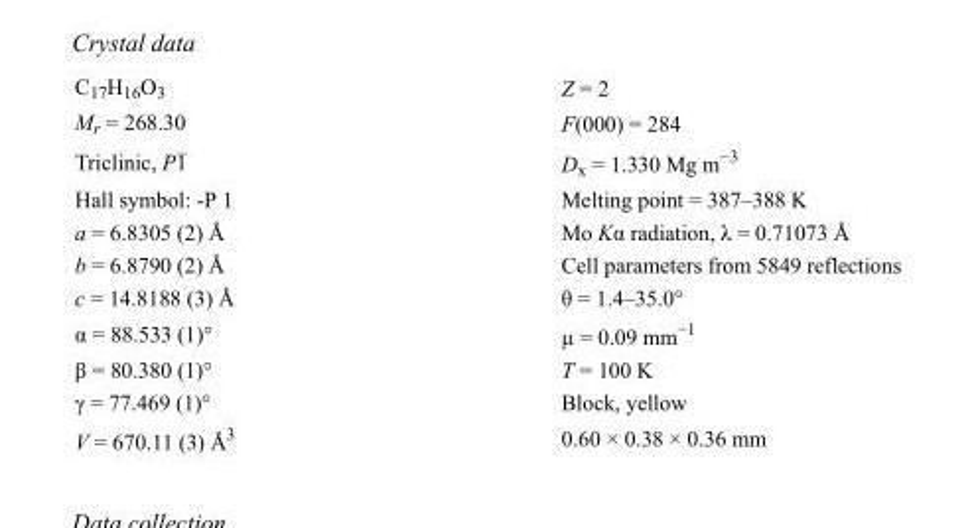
<table><tbody><tr><td>C<sub>17</sub>H<sub>16</sub>O<sub>3</sub></td><td>Z = 2</td></tr><tr><td>M<sub>r</sub> = 268.30</td><td>F(000) = 284</td></tr><tr><td>Triclinic, P1</td><td>D<sub>x</sub> = 1.330 Mg m<sup>−3</sup></td></tr><tr><td>Hall symbol: -P 1</td><td>Melting point = 387–388 K</td></tr><tr><td>a = 6.8305 (2) Å</td><td>Mo Kα radiation, λ = 0.71073 Å</td></tr><tr><td>b = 6.8790 (2) Å</td><td>Cell parameters from 5849 reflections</td></tr><tr><td>c = 14.8188 (3) Å</td><td>θ = 1.4–35.0°</td></tr><tr><td>α = 88.533 (1)°</td><td>µ = 0.09 mm<sup>−1</sup></td></tr><tr><td>β = 80.380 (1)°</td><td>T = 100 K</td></tr><tr><td>γ = 77.469 (1)°</td><td>Block, yellow</td></tr><tr><td>V = 670.11 (3) Å<sup>3</sup></td><td>0.60 × 0.38 × 0.36 mm</td></tr></tbody></table>